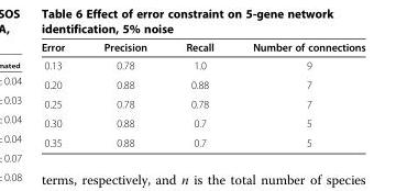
<table><thead><tr><td>Error</td><td>Precision</td><td>Recall</td><td>Number of connections</td></tr></thead><tbody><tr><td>0.13</td><td>0.78</td><td>1.0</td><td>9</td></tr><tr><td>0.20</td><td>0.88</td><td>0.88</td><td>7</td></tr><tr><td>0.25</td><td>0.78</td><td>0.78</td><td>7</td></tr><tr><td>0.30</td><td>0.88</td><td>0.7</td><td>5</td></tr><tr><td>0.35</td><td>0.88</td><td>0.7</td><td>5</td></tr></tbody></table>